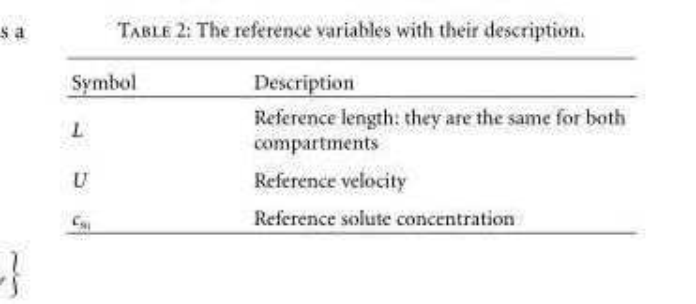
<table><thead><tr><td>Symbol</td><td>Description</td></tr></thead><tbody><tr><td>L</td><td>Reference length: they are the same for both compartments</td></tr><tr><td>U</td><td>Reference velocity</td></tr><tr><td>cs0</td><td>Reference solute concentration</td></tr></tbody></table>